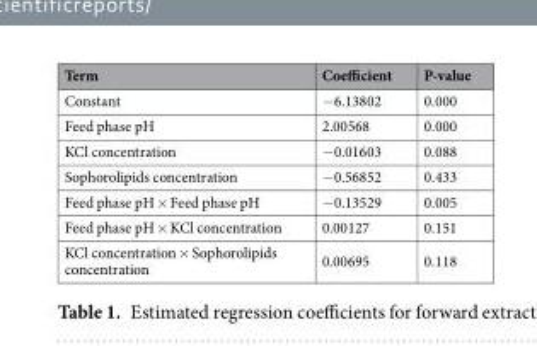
<table><thead><tr><td>Term</td><td>Coefficient</td><td>P-value</td></tr></thead><tbody><tr><td>Constant</td><td>−6.13802</td><td>0.000</td></tr><tr><td>Feed phase pH</td><td>2.00568</td><td>0.000</td></tr><tr><td>KCl concentration</td><td>−0.01603</td><td>0.088</td></tr><tr><td>Sophorolipids concentration</td><td>−0.56852</td><td>0.433</td></tr><tr><td>Feed phase pH × Feed phase pH</td><td>−0.13529</td><td>0.005</td></tr><tr><td>Feed phase pH × KCl concentration</td><td>0.00127</td><td>0.151</td></tr><tr><td>KCl concentration × Sophorolipids concentration</td><td>0.00695</td><td>0.118</td></tr></tbody></table>